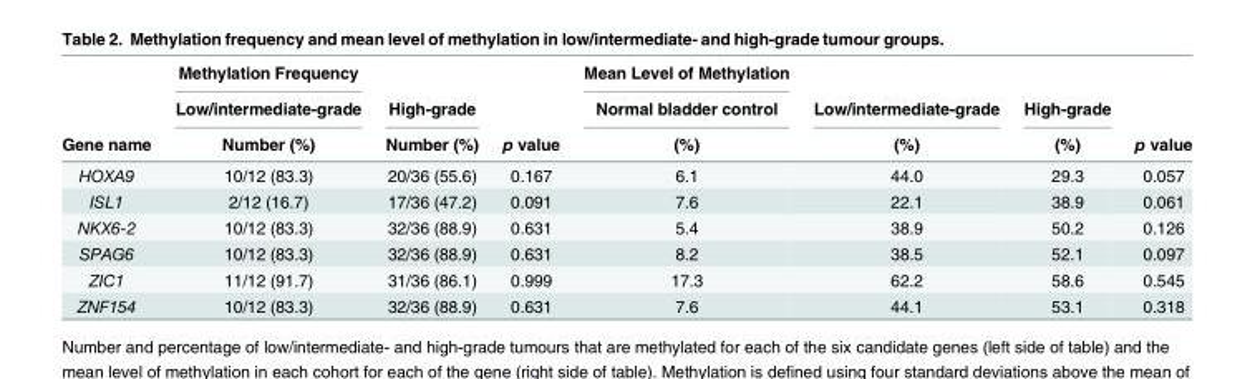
<table><thead><tr><td rowspan="3">Gene name</td><td rowspan="3">Methylation Frequency Low/intermediate-grade Number (%)</td><td rowspan="3">High-grade Number (%)</td><td rowspan="3">p value</td><td rowspan="3">Mean Level of Methylation Normal bladder control (%)</td><td rowspan="3">Low/intermediate-grade (%)</td><td rowspan="3">High-grade (%)</td><td rowspan="3">p value</td></tr><tr></tr><tr></tr></thead><tbody><tr><td>HOXA9</td><td>10/12 (83.3)</td><td>20/36 (55.6)</td><td>0.167</td><td>6.1</td><td>44.0</td><td>29.3</td><td>0.057</td></tr><tr><td>ISL1</td><td>2/12 (16.7)</td><td>17/36 (47.2)</td><td>0.091</td><td>7.6</td><td>22.1</td><td>38.9</td><td>0.061</td></tr><tr><td>NKX6-2</td><td>10/12 (83.3)</td><td>32/36 (88.9)</td><td>0.631</td><td>5.4</td><td>38.9</td><td>50.2</td><td>0.126</td></tr><tr><td>SPAG6</td><td>10/12 (83.3)</td><td>32/36 (88.9)</td><td>0.631</td><td>8.2</td><td>38.5</td><td>52.1</td><td>0.097</td></tr><tr><td>ZIC1</td><td>11/12 (91.7)</td><td>31/36 (86.1)</td><td>0.999</td><td>17.3</td><td>62.2</td><td>58.6</td><td>0.545</td></tr><tr><td>ZNF154</td><td>10/12 (83.3)</td><td>32/36 (88.9)</td><td>0.631</td><td>7.6</td><td>44.1</td><td>53.1</td><td>0.318</td></tr></tbody></table>